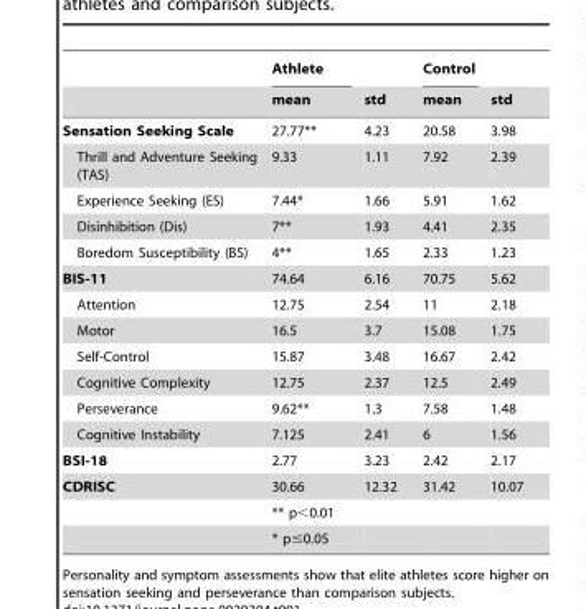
<table><thead><tr><td rowspan="2"></td><td rowspan="2">Athlete mean</td><td rowspan="2">std</td><td rowspan="2">Control mean</td><td rowspan="2">std</td></tr><tr></tr></thead><tbody><tr><td>Sensation Seeking Scale</td><td>27.77**</td><td>4.23</td><td>20.58</td><td>3.98</td></tr><tr><td>Thrill and Adventure Seeking (TAS)</td><td>9.33</td><td>1.11</td><td>7.92</td><td>2.39</td></tr><tr><td>Experience Seeking (ES)</td><td>7.44*</td><td>1.66</td><td>5.91</td><td>1.62</td></tr><tr><td>Disinhibition (Dis)</td><td>7**</td><td>1.93</td><td>4.41</td><td>2.35</td></tr><tr><td>Boredom Susceptibility (BS)</td><td>4**</td><td>1.65</td><td>2.33</td><td>1.23</td></tr><tr><td>BIS-11</td><td>74.64</td><td>6.16</td><td>70.75</td><td>5.62</td></tr><tr><td>Attention</td><td>12.75</td><td>2.54</td><td>11</td><td>2.18</td></tr><tr><td>Motor</td><td>16.5</td><td>3.7</td><td>15.08</td><td>1.75</td></tr><tr><td>Self-Control</td><td>15.87</td><td>3.48</td><td>16.67</td><td>2.42</td></tr><tr><td>Cognitive Complexity</td><td>12.75</td><td>2.37</td><td>12.5</td><td>2.49</td></tr><tr><td>Perseverance</td><td>9.62**</td><td>1.3</td><td>7.58</td><td>1.48</td></tr><tr><td>Cognitive Instability</td><td>7.125</td><td>2.41</td><td>6</td><td>1.56</td></tr><tr><td>BSI-18</td><td>2.77</td><td>3.23</td><td>2.42</td><td>2.17</td></tr><tr><td rowspan="3">CDRISC</td><td>30.66</td><td>12.32</td><td>31.42</td><td>10.07</td></tr><tr><td>** p&lt;0.01</td><td></td><td></td><td></td></tr><tr><td>* p≤0.05</td><td></td><td></td><td></td></tr></tbody></table>